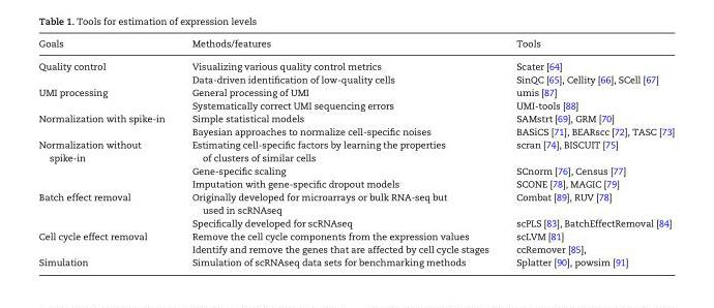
<table><thead><tr><td>Goals</td><td>Methods/features</td><td>Tools</td></tr></thead><tbody><tr><td rowspan="2">Quality control</td><td>Visualizing various quality control metrics</td><td>Scater [64]</td></tr><tr><td>Data-driven identification of low-quality cells</td><td>SinQC [65], Cellity [66], SCell [67]</td></tr><tr><td rowspan="2">UMI processing</td><td>General processing of UMI</td><td>umis [87]</td></tr><tr><td>Systematically correct UMI sequencing errors</td><td>UMI-tools [88]</td></tr><tr><td rowspan="2">Normalization with spike-in</td><td>Simple statistical models</td><td>SAMstrt [69], GRM [70]</td></tr><tr><td>Bayesian approaches to normalize cell-specific noises</td><td>BASiCS [71], BEARscc [72], TASC [73]</td></tr><tr><td rowspan="3">Normalization without spike-in</td><td>Estimating cell-specific factors by learning the properties of clusters of similar cells</td><td>scran [74], BISCUIT [75]</td></tr><tr><td>Gene-specific scaling</td><td>SCnorm [76], Census [77]</td></tr><tr><td>Imputation with gene-specific dropout models</td><td>SCONE [78], MAGIC [79]</td></tr><tr><td rowspan="2">Batch effect removal</td><td>Originally developed for microarrays or bulk RNA-seq but used in scRNAseq</td><td>Combat [89], RUV [78]</td></tr><tr><td>Specifically developed for scRNAseq</td><td>scPLS [83], BatchEffectRemoval [84]</td></tr><tr><td rowspan="2">Cell cycle effect removal</td><td>Remove the cell cycle components from the expression values</td><td>scLVM [81]</td></tr><tr><td>Identify and remove the genes that are affected by cell cycle stages</td><td>ccRemover [85],</td></tr><tr><td>Simulation</td><td>Simulation of scRNAseq data sets for benchmarking methods</td><td>Splatter [90], powsim [91]</td></tr></tbody></table>